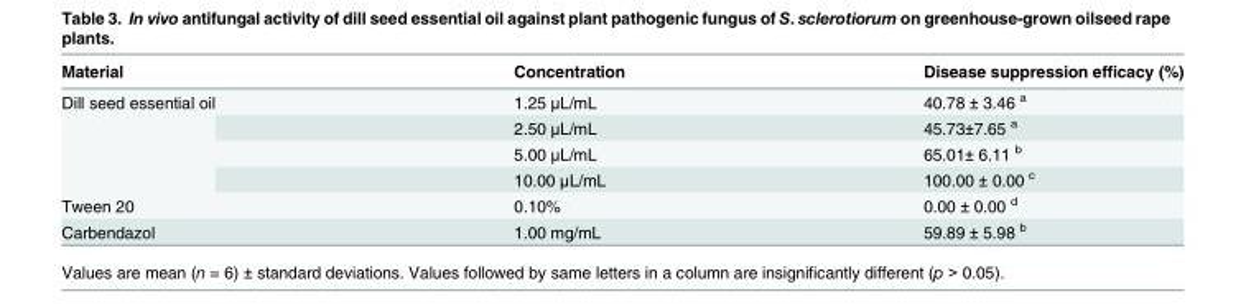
<table><thead><tr><td>Material</td><td>Concentration</td><td>Disease suppression efficacy (%)</td></tr></thead><tbody><tr><td rowspan="4">Dill seed essential oil</td><td>1.25 μL/mL</td><td>40.78 ± 3.46 <sup>a</sup></td></tr><tr><td>2.50 μL/mL</td><td>45.73±7.65 <sup>a</sup></td></tr><tr><td>5.00 μL/mL</td><td>65.01± 6.11 <sup>b</sup></td></tr><tr><td>10.00 μL/mL</td><td>100.00 ± 0.00 <sup>c</sup></td></tr><tr><td>Tween 20</td><td>0.10%</td><td>0.00 ± 0.00 <sup>d</sup></td></tr><tr><td>Carbendazol</td><td>1.00 mg/mL</td><td>59.89 ± 5.98 <sup>b</sup></td></tr></tbody></table>